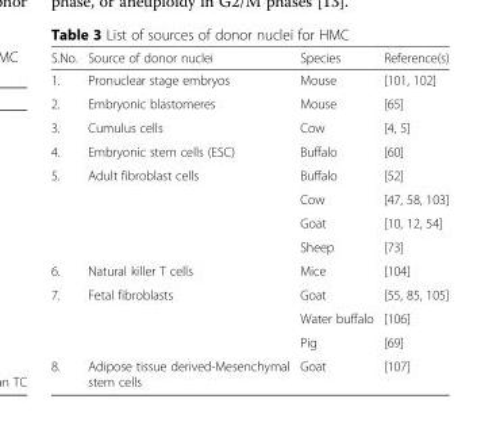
<table><thead><tr><td>S.No.</td><td>Source of donor nuclei</td><td>Species</td><td>Reference(s)</td></tr></thead><tbody><tr><td>1.</td><td>Pronuclear stage embryos</td><td>Mouse</td><td>[101, 102]</td></tr><tr><td>2.</td><td>Embryonic blastomeres</td><td>Mouse</td><td>[65]</td></tr><tr><td>3.</td><td>Cumulus cells</td><td>Cow</td><td>[4, 5]</td></tr><tr><td>4.</td><td>Embryonic stem cells (ESC)</td><td>Buffalo</td><td>[60]</td></tr><tr><td rowspan="4">5.</td><td rowspan="4">Adult fibroblast cells</td><td>Buffalo</td><td>[52]</td></tr><tr><td>Cow</td><td>[47, 58, 103]</td></tr><tr><td>Goat</td><td>[10, 12, 54]</td></tr><tr><td>Sheep</td><td>[73]</td></tr><tr><td>6.</td><td>Natural killer T cells</td><td>Mice</td><td>[104]</td></tr><tr><td rowspan="3">7.</td><td rowspan="3">Fetal fibroblasts</td><td>Goat</td><td>[55, 85, 105]</td></tr><tr><td>Water buffalo</td><td>[106]</td></tr><tr><td>Pig</td><td>[69]</td></tr><tr><td>8.</td><td>Adipose tissue derived-Mesenchymal stem cells</td><td>Goat</td><td>[107]</td></tr></tbody></table>